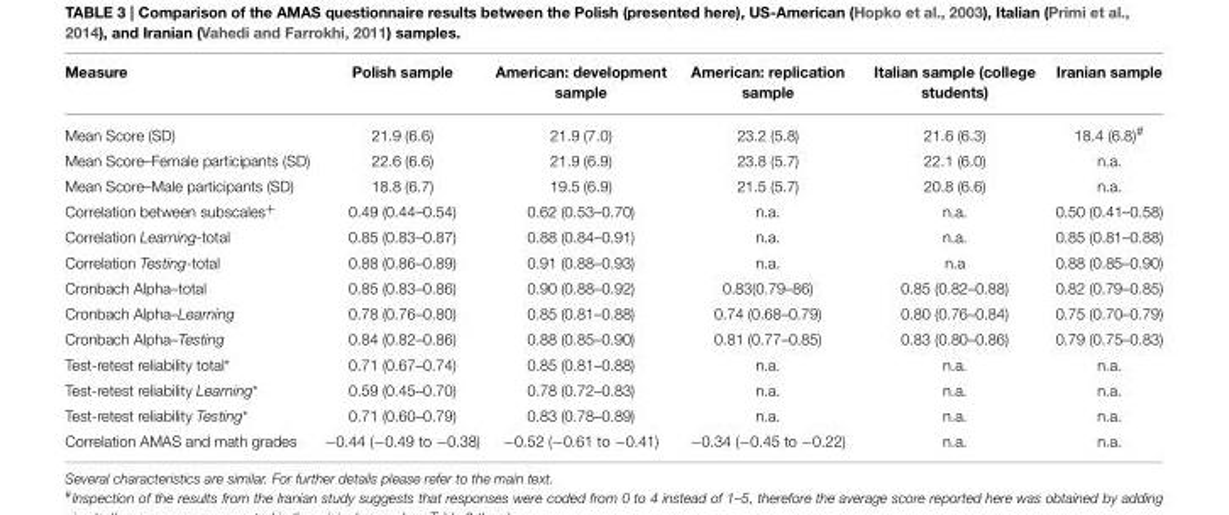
<table><thead><tr><td>Measure</td><td>Polish sample</td><td>American: development sample</td><td>American: replication sample</td><td>Italian sample (college students)</td><td>Iranian sample</td></tr></thead><tbody><tr><td>Mean Score (SD)</td><td>21.9 (6.6)</td><td>21.9 (7.0)</td><td>23.2 (5.8)</td><td>21.6 (6.3)</td><td>18.4 (6.8)<sup>#</sup></td></tr><tr><td>Mean Score–Female participants (SD)</td><td>22.6 (6.6)</td><td>21.9 (6.9)</td><td>23.8 (5.7)</td><td>22.1 (6.0)</td><td>n.a.</td></tr><tr><td>Mean Score–Male participants (SD)</td><td>18.8 (6.7)</td><td>19.5 (6.9)</td><td>21.5 (5.7)</td><td>20.8 (6.6)</td><td>n.a.</td></tr><tr><td>Correlation between subscales<sup>+</sup></td><td>0.49 (0.44–0.54)</td><td>0.62 (0.53–0.70)</td><td>n.a.</td><td>n.a.</td><td>0.50 (0.41–0.58)</td></tr><tr><td>Correlation Learning-total</td><td>0.85 (0.83–0.87)</td><td>0.88 (0.84–0.91)</td><td>n.a.</td><td>n.a.</td><td>0.85 (0.81–0.88)</td></tr><tr><td>Correlation Testing-total</td><td>0.88 (0.86–0.89)</td><td>0.91 (0.88–0.93)</td><td>n.a.</td><td>n.a</td><td>0.88 (0.85–0.90)</td></tr><tr><td>Cronbach Alpha–total</td><td>0.85 (0.83–0.86)</td><td>0.90 (0.88–0.92)</td><td>0.83(0.79–86)</td><td>0.85 (0.82–0.88)</td><td>0.82 (0.79–0.85)</td></tr><tr><td>Cronbach Alpha–Learning</td><td>0.78 (0.76–0.80)</td><td>0.85 (0.81–0.88)</td><td>0.74 (0.68–0.79)</td><td>0.80 (0.76–0.84)</td><td>0.75 (0.70–0.79)</td></tr><tr><td>Cronbach Alpha–Testing</td><td>0.84 (0.82–0.86)</td><td>0.88 (0.85–0.90)</td><td>0.81 (0.77–0.85)</td><td>0.83 (0.80–0.86)</td><td>0.79 (0.75–0.83)</td></tr><tr><td>Test-retest reliability total*</td><td>0.71 (0.67–0.74)</td><td>0.85 (0.81–0.88)</td><td>n.a.</td><td>n.a.</td><td>n.a.</td></tr><tr><td>Test-retest reliability Learning*</td><td>0.59 (0.45–0.70)</td><td>0.78 (0.72–0.83)</td><td>n.a.</td><td>n.a.</td><td>n.a.</td></tr><tr><td>Test-retest reliability Testing*</td><td>0.71 (0.60–0.79)</td><td>0.83 (0.78–0.89)</td><td>n.a.</td><td>n.a.</td><td>n.a.</td></tr><tr><td>Correlation AMAS and math grades</td><td>−0.44 (−0.49 to −0.38)</td><td>−0.52 (−0.61 to −0.41)</td><td>−0.34 (−0.45 to −0.22)</td><td>n.a.</td><td>n.a.</td></tr></tbody></table>